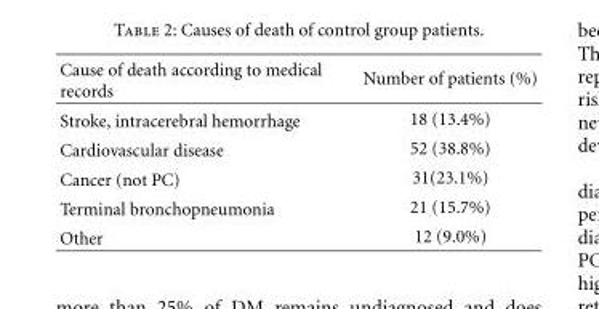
<table><thead><tr><td>Cause of death according to medical records</td><td>Number of patients (%)</td></tr></thead><tbody><tr><td>Stroke, intracerebral hemorrhage</td><td>18 (13.4%)</td></tr><tr><td>Cardiovascular disease</td><td>52 (38.8%)</td></tr><tr><td>Cancer (not PC)</td><td>31(23.1%)</td></tr><tr><td>Terminal bronchopneumonia</td><td>21 (15.7%)</td></tr><tr><td>Other</td><td>12 (9.0%)</td></tr></tbody></table>